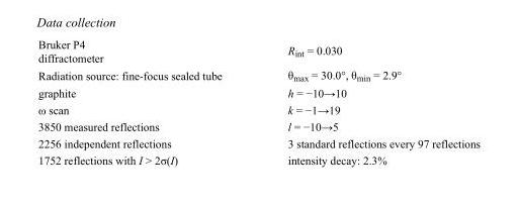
<table><tbody><tr><td>Bruker P4 diffractometer</td><td>R<sub>int</sub> = 0.030</td></tr><tr><td>Radiation source: fine-focus sealed tube</td><td>θ<sub>max</sub> = 30.0°, θ<sub>min</sub> = 2.9°</td></tr><tr><td>graphite</td><td>h = −10→10</td></tr><tr><td>ω scan</td><td>k = −1→19</td></tr><tr><td>3850 measured reflections</td><td>l = −10→5</td></tr><tr><td>2256 independent reflections</td><td>3 standard reflections every 97 reflections</td></tr><tr><td>1752 reflections with I &gt; 2σ(I)</td><td>intensity decay: 2.3%</td></tr></tbody></table>